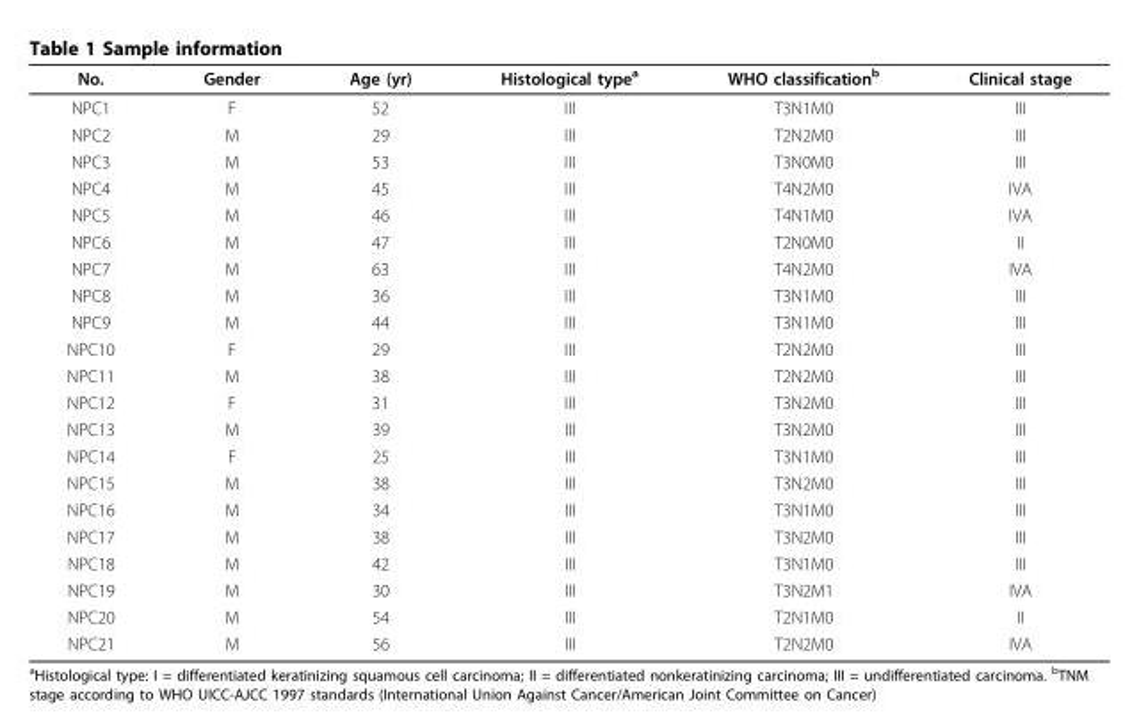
<table><thead><tr><td>No.</td><td>Gender</td><td>Age (yr)</td><td>Histological type<sup>a</sup></td><td>WHO classification<sup>b</sup></td><td>Clinical stage</td></tr></thead><tbody><tr><td>NPC1</td><td>F</td><td>52</td><td>III</td><td>T3N1M0</td><td>III</td></tr><tr><td>NPC2</td><td>M</td><td>29</td><td>III</td><td>T2N2M0</td><td>III</td></tr><tr><td>NPC3</td><td>M</td><td>53</td><td>III</td><td>T3N0M0</td><td>III</td></tr><tr><td>NPC4</td><td>M</td><td>45</td><td>III</td><td>T4N2M0</td><td>IVA</td></tr><tr><td>NPC5</td><td>M</td><td>46</td><td>III</td><td>T4N1M0</td><td>IVA</td></tr><tr><td>NPC6</td><td>M</td><td>47</td><td>III</td><td>T2N0M0</td><td>II</td></tr><tr><td>NPC7</td><td>M</td><td>63</td><td>III</td><td>T4N2M0</td><td>IVA</td></tr><tr><td>NPC8</td><td>M</td><td>36</td><td>III</td><td>T3N1M0</td><td>III</td></tr><tr><td>NPC9</td><td>M</td><td>44</td><td>III</td><td>T3N1M0</td><td>III</td></tr><tr><td>NPC10</td><td>F</td><td>29</td><td>III</td><td>T2N2M0</td><td>III</td></tr><tr><td>NPC11</td><td>M</td><td>38</td><td>III</td><td>T2N2M0</td><td>III</td></tr><tr><td>NPC12</td><td>F</td><td>31</td><td>III</td><td>T3N2M0</td><td>III</td></tr><tr><td>NPC13</td><td>M</td><td>39</td><td>III</td><td>T3N2M0</td><td>III</td></tr><tr><td>NPC14</td><td>F</td><td>25</td><td>III</td><td>T3N1M0</td><td>III</td></tr><tr><td>NPC15</td><td>M</td><td>38</td><td>III</td><td>T3N2M0</td><td>III</td></tr><tr><td>NPC16</td><td>M</td><td>34</td><td>III</td><td>T3N1M0</td><td>III</td></tr><tr><td>NPC17</td><td>M</td><td>38</td><td>III</td><td>T3N2M0</td><td>III</td></tr><tr><td>NPC18</td><td>M</td><td>42</td><td>III</td><td>T3N1M0</td><td>III</td></tr><tr><td>NPC19</td><td>M</td><td>30</td><td>III</td><td>T3N2M1</td><td>IVA</td></tr><tr><td>NPC20</td><td>M</td><td>54</td><td>III</td><td>T2N1M0</td><td>II</td></tr><tr><td>NPC21</td><td>M</td><td>56</td><td>III</td><td>T2N2M0</td><td>IVA</td></tr></tbody></table>